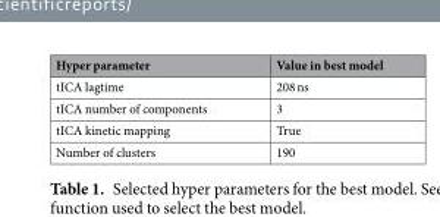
<table><thead><tr><td>Hyper parameter</td><td>Value in best model</td></tr></thead><tbody><tr><td>tICA lagtime</td><td>208 ns</td></tr><tr><td>tICA number of components</td><td>3</td></tr><tr><td>tICA kinetic mapping</td><td>True</td></tr><tr><td>Number of clusters</td><td>190</td></tr></tbody></table>